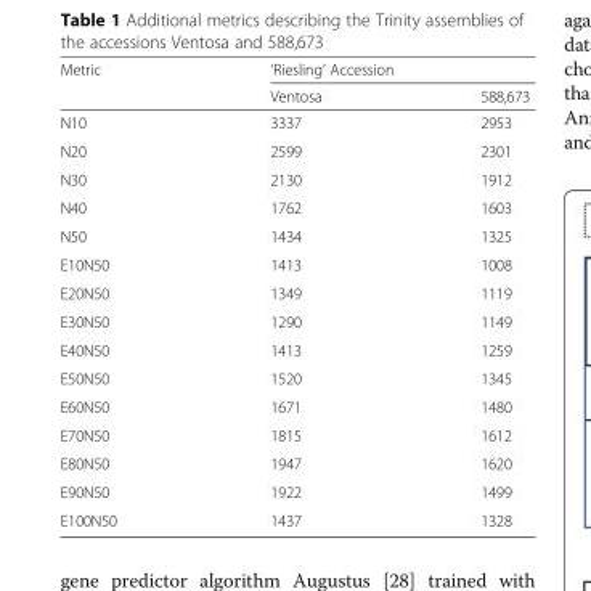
<table><thead><tr><td rowspan="2">Metric</td><td colspan="2">‘Riesling’ Accession</td></tr><tr><td>Ventosa</td><td>588,673</td></tr></thead><tbody><tr><td>N10</td><td>3337</td><td>2953</td></tr><tr><td>N20</td><td>2599</td><td>2301</td></tr><tr><td>N30</td><td>2130</td><td>1912</td></tr><tr><td>N40</td><td>1762</td><td>1603</td></tr><tr><td>N50</td><td>1434</td><td>1325</td></tr><tr><td>E10N50</td><td>1413</td><td>1008</td></tr><tr><td>E20N50</td><td>1349</td><td>1119</td></tr><tr><td>E30N50</td><td>1290</td><td>1149</td></tr><tr><td>E40N50</td><td>1413</td><td>1259</td></tr><tr><td>E50N50</td><td>1520</td><td>1345</td></tr><tr><td>E60N50</td><td>1671</td><td>1480</td></tr><tr><td>E70N50</td><td>1815</td><td>1612</td></tr><tr><td>E80N50</td><td>1947</td><td>1620</td></tr><tr><td>E90N50</td><td>1922</td><td>1499</td></tr><tr><td>E100N50</td><td>1437</td><td>1328</td></tr></tbody></table>